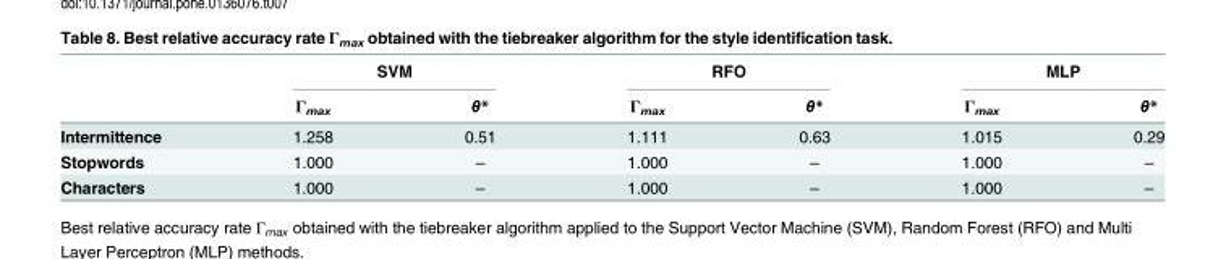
<table><thead><tr><td rowspan="2"></td><td colspan="2">SVM</td><td colspan="2">RFO</td><td colspan="2">MLP</td></tr><tr><td>Γ<sub>max</sub></td><td>θ*</td><td>Γ<sub>max</sub></td><td>θ*</td><td>Γ<sub>max</sub></td><td>θ*</td></tr></thead><tbody><tr><td>Intermittence</td><td>1.258</td><td>0.51</td><td>1.111</td><td>0.63</td><td>1.015</td><td>0.29</td></tr><tr><td>Stopwords</td><td>1.000</td><td>–</td><td>1.000</td><td>–</td><td>1.000</td><td>–</td></tr><tr><td>Characters</td><td>1.000</td><td>–</td><td>1.000</td><td>–</td><td>1.000</td><td>–</td></tr></tbody></table>